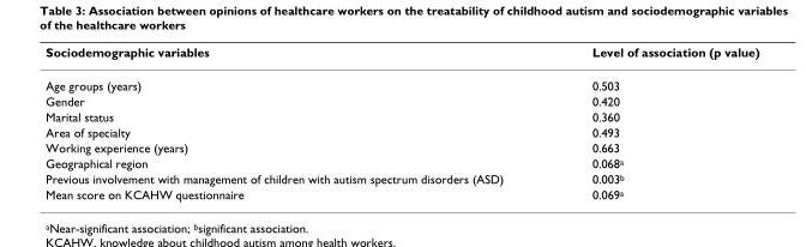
<table><thead><tr><td>Sociodemographic variables</td><td>Level of association (p value)</td></tr></thead><tbody><tr><td>Age groups (years)</td><td>0.503</td></tr><tr><td>Gender</td><td>0.420</td></tr><tr><td>Marital status</td><td>0.360</td></tr><tr><td>Area of specialty</td><td>0.493</td></tr><tr><td>Working experience (years)</td><td>0.663</td></tr><tr><td>Geographical region</td><td>0.068<sup>a</sup></td></tr><tr><td>Previous involvement with management of children with autism spectrum disorders (ASD)</td><td>0.003<sup>b</sup></td></tr><tr><td>Mean score on KCAHW questionnaire</td><td>0.069<sup>a</sup></td></tr></tbody></table>